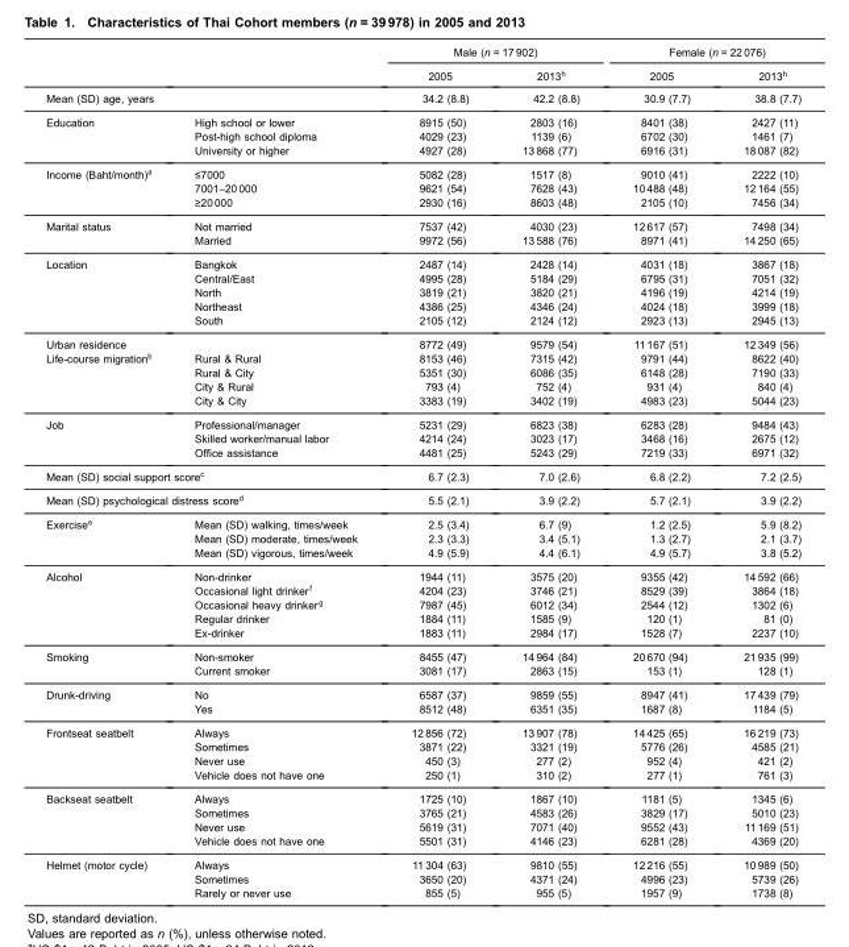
<table><thead><tr><td rowspan="2"></td><td rowspan="2"></td><td colspan="2">Male (n = 17 902)</td><td colspan="2">Female (n = 22 076)</td></tr><tr><td>2005</td><td>2013<sup>h</sup></td><td>2005</td><td>2013<sup>h</sup></td></tr></thead><tbody><tr><td colspan="2">Mean (SD) age, years</td><td>34.2 (8.8)</td><td>42.2 (8.8)</td><td>30.9 (7.7)</td><td>38.8 (7.7)</td></tr><tr><td rowspan="3">Education</td><td>High school or lower</td><td>8915 (50)</td><td>2803 (16)</td><td>8401 (38)</td><td>2427 (11)</td></tr><tr><td>Post-high school diploma</td><td>4029 (23)</td><td>1139 (6)</td><td>6702 (30)</td><td>1461 (7)</td></tr><tr><td>University or higher</td><td>4927 (28)</td><td>13 868 (77)</td><td>6916 (31)</td><td>18 087 (82)</td></tr><tr><td rowspan="3">Income (Baht/month)<sup>a</sup></td><td>≤7000</td><td>5082 (28)</td><td>1517 (8)</td><td>9010 (41)</td><td>2222 (10)</td></tr><tr><td>7001–20 000</td><td>9621 (54)</td><td>7628 (43)</td><td>10 488 (48)</td><td>12 164 (55)</td></tr><tr><td>≥20 000</td><td>2930 (16)</td><td>8603 (48)</td><td>2105 (10)</td><td>7456 (34)</td></tr><tr><td rowspan="2">Marital status</td><td>Not married</td><td>7537 (42)</td><td>4030 (23)</td><td>12 617 (57)</td><td>7498 (34)</td></tr><tr><td>Married</td><td>9972 (56)</td><td>13 588 (76)</td><td>8971 (41)</td><td>14 250 (65)</td></tr><tr><td rowspan="5">Location</td><td>Bangkok</td><td>2487 (14)</td><td>2428 (14)</td><td>4031 (18)</td><td>3867 (18)</td></tr><tr><td>Central/East</td><td>4995 (28)</td><td>5184 (29)</td><td>6795 (31)</td><td>7051 (32)</td></tr><tr><td>North</td><td>3819 (21)</td><td>3820 (21)</td><td>4196 (19)</td><td>4214 (19)</td></tr><tr><td>Northeast</td><td>4386 (25)</td><td>4346 (24)</td><td>4024 (18)</td><td>3999 (18)</td></tr><tr><td>South</td><td>2105 (12)</td><td>2124 (12)</td><td>2923 (13)</td><td>2945 (13)</td></tr><tr><td colspan="2">Urban residence</td><td>8772 (49)</td><td>9579 (54)</td><td>11 167 (51)</td><td>12 349 (56)</td></tr><tr><td rowspan="4">Life-course migration<sup>b</sup></td><td>Rural &amp; Rural</td><td>8153 (46)</td><td>7315 (42)</td><td>9791 (44)</td><td>8622 (40)</td></tr><tr><td>Rural &amp; City</td><td>5351 (30)</td><td>6086 (35)</td><td>6148 (28)</td><td>7190 (33)</td></tr><tr><td>City &amp; Rural</td><td>793 (4)</td><td>752 (4)</td><td>931 (4)</td><td>840 (4)</td></tr><tr><td>City &amp; City</td><td>3383 (19)</td><td>3402 (19)</td><td>4983 (23)</td><td>5044 (23)</td></tr><tr><td rowspan="3">Job</td><td>Professional/manager</td><td>5231 (29)</td><td>6823 (38)</td><td>6283 (28)</td><td>9484 (43)</td></tr><tr><td>Skilled worker/manual labor</td><td>4214 (24)</td><td>3023 (17)</td><td>3468 (16)</td><td>2675 (12)</td></tr><tr><td>Office assistance</td><td>4481 (25)</td><td>5243 (29)</td><td>7219 (33)</td><td>6971 (32)</td></tr><tr><td colspan="2">Mean (SD) social support score<sup>c</sup></td><td>6.7 (2.3)</td><td>7.0 (2.6)</td><td>6.8 (2.2)</td><td>7.2 (2.5)</td></tr><tr><td colspan="2">Mean (SD) psychological distress score<sup>d</sup></td><td>5.5 (2.1)</td><td>3.9 (2.2)</td><td>5.7 (2.1)</td><td>3.9 (2.2)</td></tr><tr><td rowspan="3">Exercise<sup>e</sup></td><td>Mean (SD) walking, times/week</td><td>2.5 (3.4)</td><td>6.7 (9)</td><td>1.2 (2.5)</td><td>5.9 (8.2)</td></tr><tr><td>Mean (SD) moderate, times/week</td><td>2.3 (3.3)</td><td>3.4 (5.1)</td><td>1.3 (2.7)</td><td>2.1 (3.7)</td></tr><tr><td>Mean (SD) vigorous, times/week</td><td>4.9 (5.9)</td><td>4.4 (6.1)</td><td>4.9 (5.7)</td><td>3.8 (5.2)</td></tr><tr><td rowspan="5">Alcohol</td><td>Non-drinker</td><td>1944 (11)</td><td>3575 (20)</td><td>9355 (42)</td><td>14 592 (66)</td></tr><tr><td>Occasional light drinker<sup>f</sup></td><td>4204 (23)</td><td>3746 (21)</td><td>8529 (39)</td><td>3864 (18)</td></tr><tr><td>Occasional heavy drinker<sup>g</sup></td><td>7987 (45)</td><td>6012 (34)</td><td>2544 (12)</td><td>1302 (6)</td></tr><tr><td>Regular drinker</td><td>1884 (11)</td><td>1585 (9)</td><td>120 (1)</td><td>81 (0)</td></tr><tr><td>Ex-drinker</td><td>1883 (11)</td><td>2984 (17)</td><td>1528 (7)</td><td>2237 (10)</td></tr><tr><td rowspan="2">Smoking</td><td>Non-smoker</td><td>8455 (47)</td><td>14 964 (84)</td><td>20 670 (94)</td><td>21 935 (99)</td></tr><tr><td>Current smoker</td><td>3081 (17)</td><td>2863 (15)</td><td>153 (1)</td><td>128 (1)</td></tr><tr><td rowspan="2">Drunk-driving</td><td>No</td><td>6587 (37)</td><td>9859 (55)</td><td>8947 (41)</td><td>17 439 (79)</td></tr><tr><td>Yes</td><td>8512 (48)</td><td>6351 (35)</td><td>1687 (8)</td><td>1184 (5)</td></tr><tr><td rowspan="4">Frontseat seatbelt</td><td>Always</td><td>12 856 (72)</td><td>13 907 (78)</td><td>14 425 (65)</td><td>16 219 (73)</td></tr><tr><td>Sometimes</td><td>3871 (22)</td><td>3321 (19)</td><td>5776 (26)</td><td>4585 (21)</td></tr><tr><td>Never use</td><td>450 (3)</td><td>277 (2)</td><td>952 (4)</td><td>421 (2)</td></tr><tr><td>Vehicle does not have one</td><td>250 (1)</td><td>310 (2)</td><td>277 (1)</td><td>761 (3)</td></tr><tr><td rowspan="4">Backseat seatbelt</td><td>Always</td><td>1725 (10)</td><td>1867 (10)</td><td>1181 (5)</td><td>1345 (6)</td></tr><tr><td>Sometimes</td><td>3765 (21)</td><td>4583 (26)</td><td>3829 (17)</td><td>5010 (23)</td></tr><tr><td>Never use</td><td>5619 (31)</td><td>7071 (40)</td><td>9552 (43)</td><td>11 169 (51)</td></tr><tr><td>Vehicle does not have one</td><td>5501 (31)</td><td>4146 (23)</td><td>6281 (28)</td><td>4369 (20)</td></tr><tr><td rowspan="3">Helmet (motor cycle)</td><td>Always</td><td>11 304 (63)</td><td>9810 (55)</td><td>12 216 (55)</td><td>10 989 (50)</td></tr><tr><td>Sometimes</td><td>3650 (20)</td><td>4371 (24)</td><td>4996 (23)</td><td>5739 (26)</td></tr><tr><td>Rarely or never use</td><td>855 (5)</td><td>955 (5)</td><td>1957 (9)</td><td>1738 (8)</td></tr></tbody></table>